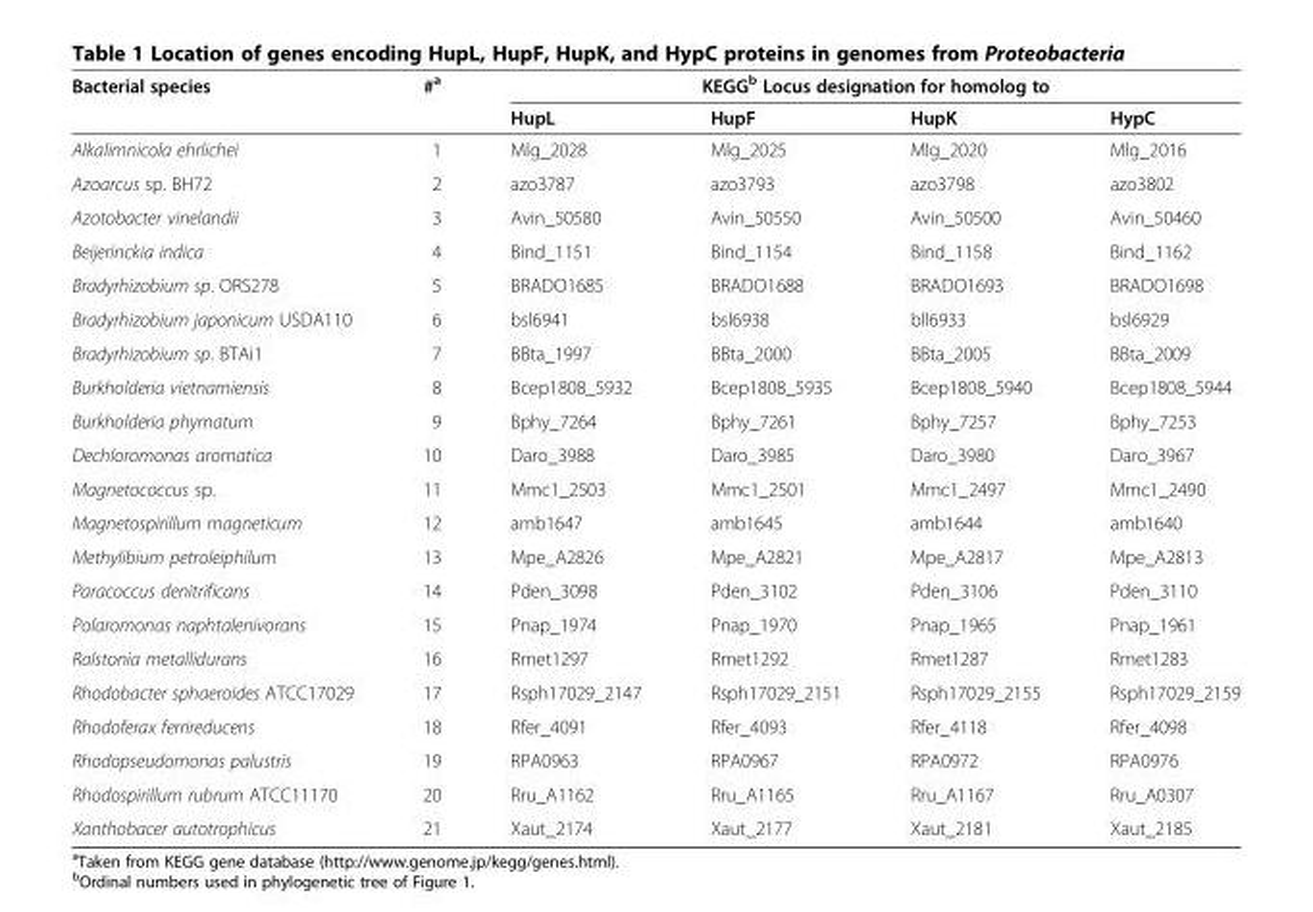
<table><thead><tr><td rowspan="2">Bacterial species</td><td rowspan="2">#<sup>a</sup></td><td colspan="4">KEGG<sup>b</sup> Locus designation for homolog to</td></tr><tr><td>HupL</td><td>HupF</td><td>HupK</td><td>HypC</td></tr></thead><tbody><tr><td>Alkalimnicola ehrlichei</td><td>1</td><td>Mlg_2028</td><td>Mlg_2025</td><td>Mlg_2020</td><td>Mlg_2016</td></tr><tr><td>Azoarcus sp. BH72</td><td>2</td><td>azo3787</td><td>azo3793</td><td>azo3798</td><td>azo3802</td></tr><tr><td>Azotobacter vinelandii</td><td>3</td><td>Avin_50580</td><td>Avin_50550</td><td>Avin_50500</td><td>Avin_50460</td></tr><tr><td>Beijerinckia indica</td><td>4</td><td>Bind_1151</td><td>Bind_1154</td><td>Bind_1158</td><td>Bind_1162</td></tr><tr><td>Bradyrhizobium sp. ORS278</td><td>5</td><td>BRADO1685</td><td>BRADO1688</td><td>BRADO1693</td><td>BRADO1698</td></tr><tr><td>Bradyrhizobium japonicum USDA110</td><td>6</td><td>bsl6941</td><td>bsl6938</td><td>bll6933</td><td>bsl6929</td></tr><tr><td>Bradyrhizobium sp. BTAi1</td><td>7</td><td>BBta_1997</td><td>BBta_2000</td><td>BBta_2005</td><td>BBta_2009</td></tr><tr><td>Burkholderia vietnamiensis</td><td>8</td><td>Bcep1808_5932</td><td>Bcep1808_5935</td><td>Bcep1808_5940</td><td>Bcep1808_5944</td></tr><tr><td>Burkholderia phymatum</td><td>9</td><td>Bphy_7264</td><td>Bphy_7261</td><td>Bphy_7257</td><td>Bphy_7253</td></tr><tr><td>Dechloromonas aromatica</td><td>10</td><td>Daro_3988</td><td>Daro_3985</td><td>Daro_3980</td><td>Daro_3967</td></tr><tr><td>Magnetococcus sp.</td><td>11</td><td>Mmc1_2503</td><td>Mmc1_2501</td><td>Mmc1_2497</td><td>Mmc1_2490</td></tr><tr><td>Magnetospirillum magneticum</td><td>12</td><td>amb1647</td><td>amb1645</td><td>amb1644</td><td>amb1640</td></tr><tr><td>Methylibium petroleiphilum</td><td>13</td><td>Mpe_A2826</td><td>Mpe_A2821</td><td>Mpe_A2817</td><td>Mpe_A2813</td></tr><tr><td>Paracoccus denitrificans</td><td>14</td><td>Pden_3098</td><td>Pden_3102</td><td>Pden_3106</td><td>Pden_3110</td></tr><tr><td>Polaromonas naphtalenivorans</td><td>15</td><td>Pnap_1974</td><td>Pnap_1970</td><td>Pnap_1965</td><td>Pnap_1961</td></tr><tr><td>Ralstonia metallidurans</td><td>16</td><td>Rmet1297</td><td>Rmet1292</td><td>Rmet1287</td><td>Rmet1283</td></tr><tr><td>Rhodobacter sphaeroides ATCC17029</td><td>17</td><td>Rsph17029_2147</td><td>Rsph17029_2151</td><td>Rsph17029_2155</td><td>Rsph17029_2159</td></tr><tr><td>Rhodoferax ferrireducens</td><td>18</td><td>Rfer_4091</td><td>Rfer_4093</td><td>Rfer_4118</td><td>Rfer_4098</td></tr><tr><td>Rhodopseudomonas palustris</td><td>19</td><td>RPA0963</td><td>RPA0967</td><td>RPA0972</td><td>RPA0976</td></tr><tr><td>Rhodospirillum rubrum ATCC11170</td><td>20</td><td>Rru_A1162</td><td>Rru_A1165</td><td>Rru_A1167</td><td>Rru_A0307</td></tr><tr><td>Xanthobacer autotrophicus</td><td>21</td><td>Xaut_2174</td><td>Xaut_2177</td><td>Xaut_2181</td><td>Xaut_2185</td></tr></tbody></table>